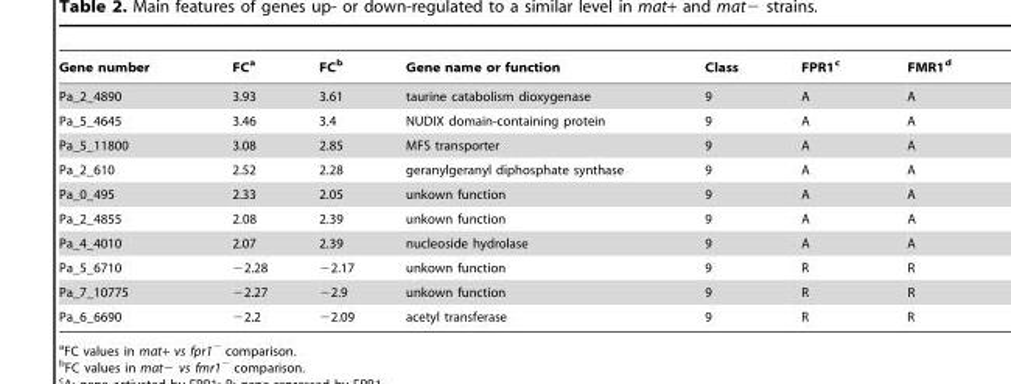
<table><thead><tr><td>Gene number</td><td>FC<sup>a</sup></td><td>FC<sup>b</sup></td><td>Gene name or function</td><td>Class</td><td>FPR1<sup>c</sup></td><td>FMR1<sup>d</sup></td></tr></thead><tbody><tr><td>Pa_2_4890</td><td>3.93</td><td>3.61</td><td>taurine catabolism dioxygenase</td><td>9</td><td>A</td><td>A</td></tr><tr><td>Pa_5_4645</td><td>3.46</td><td>3.4</td><td>NUDIX domain-containing protein</td><td>9</td><td>A</td><td>A</td></tr><tr><td>Pa_5_11800</td><td>3.08</td><td>2.85</td><td>MFS transporter</td><td>9</td><td>A</td><td>A</td></tr><tr><td>Pa_2_610</td><td>2.52</td><td>2.28</td><td>geranylgeranyl diphosphate synthase</td><td>9</td><td>A</td><td>A</td></tr><tr><td>Pa_0_495</td><td>2.33</td><td>2.05</td><td>unkown function</td><td>9</td><td>A</td><td>A</td></tr><tr><td>Pa_2_4855</td><td>2.08</td><td>2.39</td><td>unkown function</td><td>9</td><td>A</td><td>A</td></tr><tr><td>Pa_4_4010</td><td>2.07</td><td>2.39</td><td>nucleoside hydrolase</td><td>9</td><td>A</td><td>A</td></tr><tr><td>Pa_5_6710</td><td>−2.28</td><td>−2.17</td><td>unkown function</td><td>9</td><td>R</td><td>R</td></tr><tr><td>Pa_7_10775</td><td>−2.27</td><td>−2.9</td><td>unkown function</td><td>9</td><td>R</td><td>R</td></tr><tr><td>Pa_6_6690</td><td>−2.2</td><td>−2.09</td><td>acetyl transferase</td><td>9</td><td>R</td><td>R</td></tr></tbody></table>